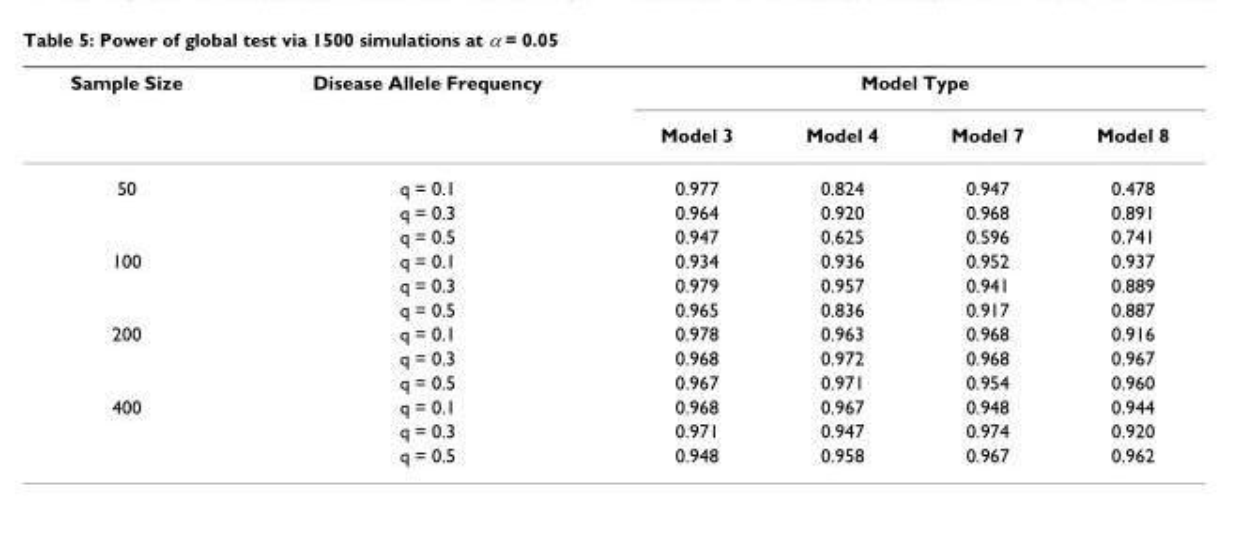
<table><thead><tr><td rowspan="2">Sample Size</td><td rowspan="2">Disease Allele Frequency</td><td colspan="4">Model Type</td></tr><tr><td>Model 3</td><td>Model 4</td><td>Model 7</td><td>Model 8</td></tr></thead><tbody><tr><td rowspan="3">50</td><td>q = 0.1</td><td>0.977</td><td>0.824</td><td>0.947</td><td>0.478</td></tr><tr><td>q = 0.3</td><td>0.964</td><td>0.920</td><td>0.968</td><td>0.891</td></tr><tr><td>q = 0.5</td><td>0.947</td><td>0.625</td><td>0.596</td><td>0.741</td></tr><tr><td rowspan="3">100</td><td>q = 0.1</td><td>0.934</td><td>0.936</td><td>0.952</td><td>0.937</td></tr><tr><td>q = 0.3</td><td>0.979</td><td>0.957</td><td>0.941</td><td>0.889</td></tr><tr><td>q = 0.5</td><td>0.965</td><td>0.836</td><td>0.917</td><td>0.887</td></tr><tr><td rowspan="3">200</td><td>q = 0.1</td><td>0.978</td><td>0.963</td><td>0.968</td><td>0.916</td></tr><tr><td>q = 0.3</td><td>0.968</td><td>0.972</td><td>0.968</td><td>0.967</td></tr><tr><td>q = 0.5</td><td>0.967</td><td>0.971</td><td>0.954</td><td>0.960</td></tr><tr><td rowspan="3">400</td><td>q = 0.1</td><td>0.968</td><td>0.967</td><td>0.948</td><td>0.944</td></tr><tr><td>q = 0.3</td><td>0.971</td><td>0.947</td><td>0.974</td><td>0.920</td></tr><tr><td>q = 0.5</td><td>0.948</td><td>0.958</td><td>0.967</td><td>0.962</td></tr></tbody></table>